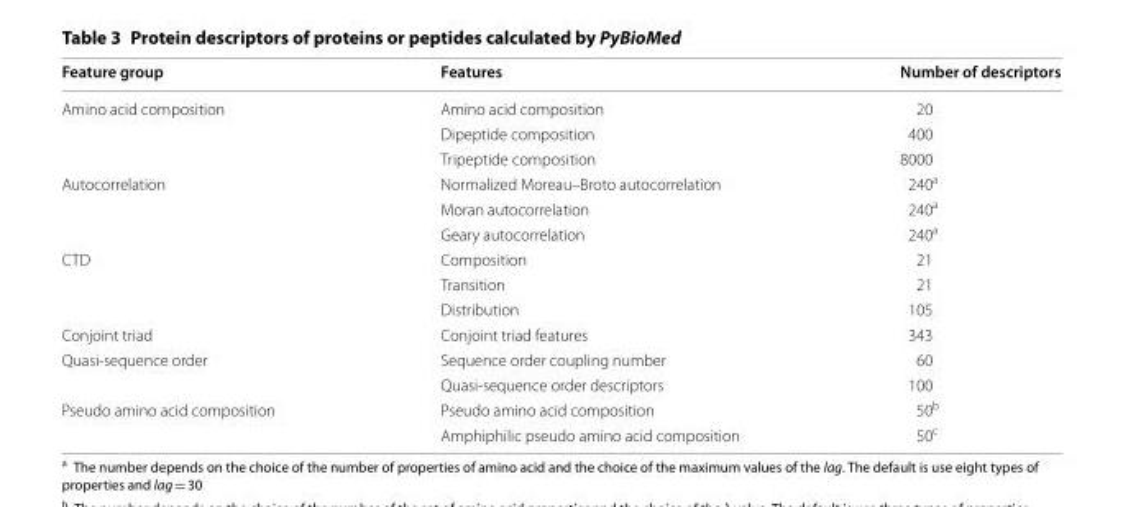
<table><thead><tr><td>Feature group</td><td>Features</td><td>Number of descriptors</td></tr></thead><tbody><tr><td rowspan="3">Amino acid composition</td><td>Amino acid composition</td><td>20</td></tr><tr><td>Dipeptide composition</td><td>400</td></tr><tr><td>Tripeptide composition</td><td>8000</td></tr><tr><td rowspan="3">Autocorrelation</td><td>Normalized Moreau–Broto autocorrelation</td><td>240<sup>a</sup></td></tr><tr><td>Moran autocorrelation</td><td>240<sup>a</sup></td></tr><tr><td>Geary autocorrelation</td><td>240<sup>a</sup></td></tr><tr><td rowspan="3">CTD</td><td>Composition</td><td>21</td></tr><tr><td>Transition</td><td>21</td></tr><tr><td>Distribution</td><td>105</td></tr><tr><td>Conjoint triad</td><td>Conjoint triad features</td><td>343</td></tr><tr><td rowspan="2">Quasi‑sequence order</td><td>Sequence order coupling number</td><td>60</td></tr><tr><td>Quasi‑sequence order descriptors</td><td>100</td></tr><tr><td rowspan="2">Pseudo amino acid composition</td><td>Pseudo amino acid composition</td><td>50<sup>b</sup></td></tr><tr><td>Amphiphilic pseudo amino acid composition</td><td>50<sup>c</sup></td></tr></tbody></table>